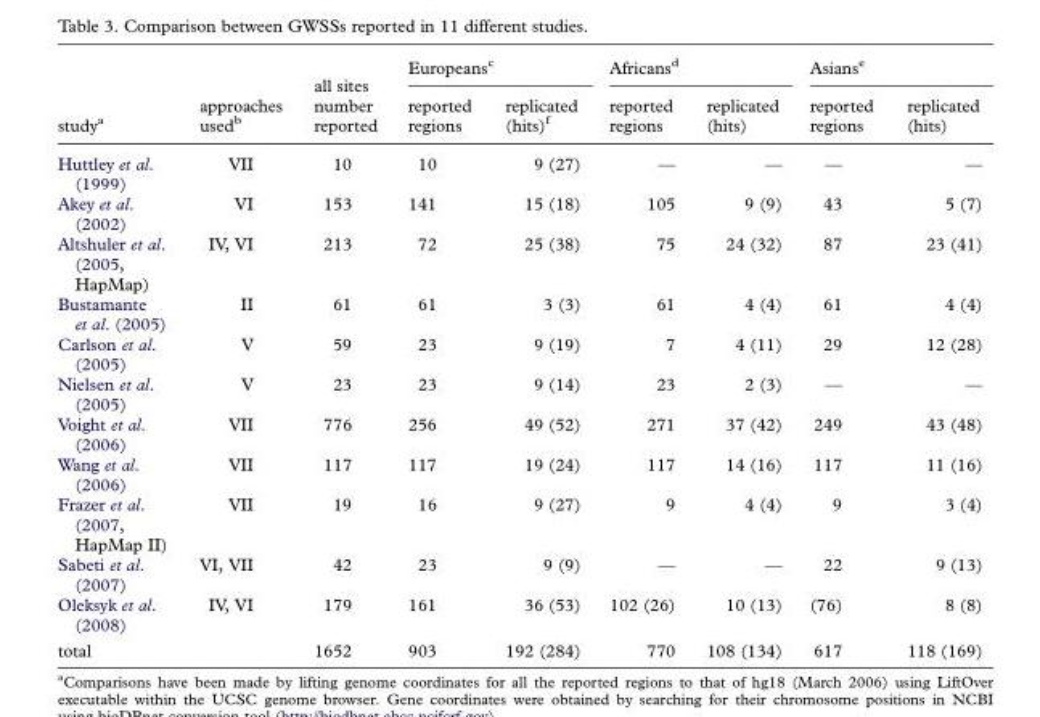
<table><thead><tr><td rowspan="2">study<sup>a</sup></td><td rowspan="2">approaches used<sup>b</sup></td><td rowspan="2">all sites number reported</td><td colspan="2">Europeans<sup>c</sup></td><td colspan="2">Africans<sup>d</sup></td><td colspan="2">Asians<sup>e</sup></td></tr><tr><td>reported regions</td><td>replicated (hits)<sup>f</sup></td><td>reported regions</td><td>replicated (hits)</td><td>reported regions</td><td>replicated (hits)</td></tr></thead><tbody><tr><td>Huttley et al. (1999)</td><td>VII</td><td>10</td><td>10</td><td>9 (27)</td><td>—</td><td>—</td><td>—</td><td>—</td></tr><tr><td>Akey et al. (2002)</td><td>VI</td><td>153</td><td>141</td><td>15 (18)</td><td>105</td><td>9 (9)</td><td>43</td><td>5 (7)</td></tr><tr><td>Altshuler et al. (2005, HapMap)</td><td>IV, VI</td><td>213</td><td>72</td><td>25 (38)</td><td>75</td><td>24 (32)</td><td>87</td><td>23 (41)</td></tr><tr><td>Bustamante et al. (2005)</td><td>II</td><td>61</td><td>61</td><td>3 (3)</td><td>61</td><td>4 (4)</td><td>61</td><td>4 (4)</td></tr><tr><td>Carlson et al. (2005)</td><td>V</td><td>59</td><td>23</td><td>9 (19)</td><td>7</td><td>4 (11)</td><td>29</td><td>12 (28)</td></tr><tr><td>Nielsen et al. (2005)</td><td>V</td><td>23</td><td>23</td><td>9 (14)</td><td>23</td><td>2 (3)</td><td>—</td><td>—</td></tr><tr><td>Voight et al. (2006)</td><td>VII</td><td>776</td><td>256</td><td>49 (52)</td><td>271</td><td>37 (42)</td><td>249</td><td>43 (48)</td></tr><tr><td>Wang et al. (2006)</td><td>VII</td><td>117</td><td>117</td><td>19 (24)</td><td>117</td><td>14 (16)</td><td>117</td><td>11 (16)</td></tr><tr><td>Frazer et al. (2007, HapMap II)</td><td>VII</td><td>19</td><td>16</td><td>9 (27)</td><td>9</td><td>4 (4)</td><td>9</td><td>3 (4)</td></tr><tr><td>Sabeti et al. (2007)</td><td>VI, VII</td><td>42</td><td>23</td><td>9 (9)</td><td>—</td><td>—</td><td>22</td><td>9 (13)</td></tr><tr><td>Oleksyk et al. (2008)</td><td>IV, VI</td><td>179</td><td>161</td><td>36 (53)</td><td>102 (26)</td><td>10 (13)</td><td>(76)</td><td>8 (8)</td></tr><tr><td>total</td><td></td><td>1652</td><td>903</td><td>192 (284)</td><td>770</td><td>108 (134)</td><td>617</td><td>118 (169)</td></tr></tbody></table>